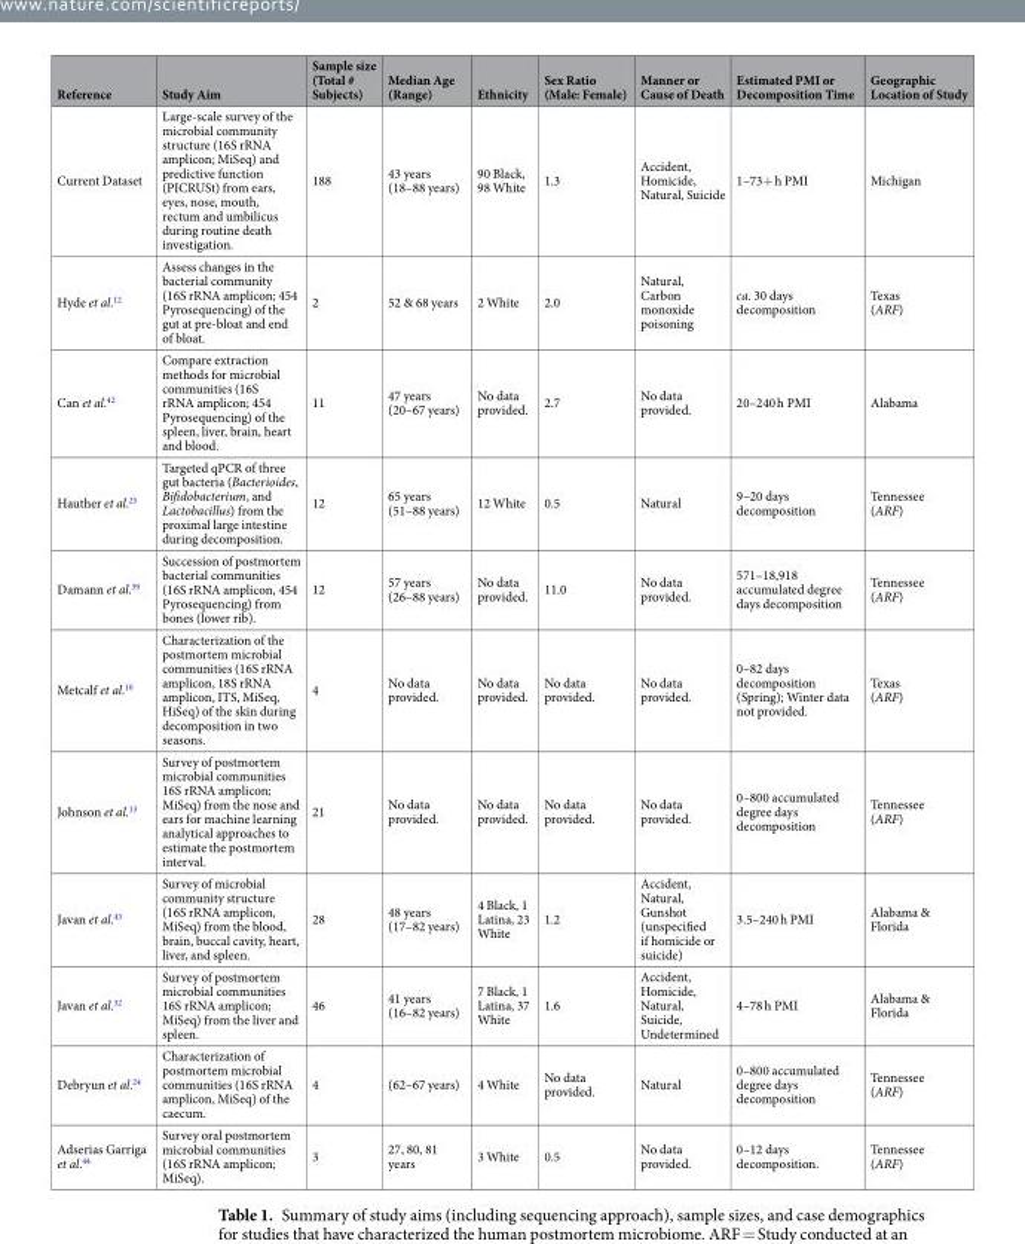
<table><thead><tr><td>Reference</td><td>Study Aim</td><td>Sample size (Total # Subjects)</td><td>Median Age (Range)</td><td>Ethnicity</td><td>Sex Ratio (Male: Female)</td><td>Manner or Cause of Death</td><td>Estimated PMI or Decomposition Time</td><td>Geographic Location of Study</td></tr></thead><tbody><tr><td>Current Dataset</td><td>Large-scale survey of the microbial community structure (16S rRNA amplicon; MiSeq) and predictive function (PICRUSt) from ears, eyes, nose, mouth, rectum and umbilicus during routine death investigation.</td><td>188</td><td>43 years (18–88 years)</td><td>90 Black, 98 White</td><td>1.3</td><td>Accident, Homicide, Natural, Suicide</td><td>1–73+ h PMI</td><td>Michigan</td></tr><tr><td>Hyde et al.<sup>12</sup></td><td>Assess changes in the bacterial community (16S rRNA amplicon; 454 Pyrosequencing) of the gut at pre-bloat and end of bloat.</td><td>2</td><td>52 &amp; 68 years</td><td>2 White</td><td>2.0</td><td>Natural, Carbon monoxide poisoning</td><td>ca. 30 days decomposition</td><td>Texas (ARF)</td></tr><tr><td>Can et al.<sup>42</sup></td><td>Compare extraction methods for microbial communities (16S rRNA amplicon; 454 Pyrosequencing) of the spleen, liver, brain, heart and blood.</td><td>11</td><td>47 years (20–67 years)</td><td>No data provided.</td><td>2.7</td><td>No data provided.</td><td>20–240 h PMI</td><td>Alabama</td></tr><tr><td>Hauther et al.<sup>25</sup></td><td>Targeted qPCR of three gut bacteria (Bacterioides, Bifidobacterium, and Lactobacillus) from the proximal large intestine during decomposition.</td><td>12</td><td>65 years (51–88 years)</td><td>12 White</td><td>0.5</td><td>Natural</td><td>9–20 days decomposition</td><td>Tennessee (ARF)</td></tr><tr><td>Damann et al.<sup>39</sup></td><td>Succession of postmortem bacterial communities (16S rRNA amplicon, 454 Pyrosequencing) from bones (lower rib).</td><td>12</td><td>57 years (26–88 years)</td><td>No data provided.</td><td>11.0</td><td>No data provided.</td><td>571–18,918 accumulated degree days decomposition</td><td>Tennessee (ARF)</td></tr><tr><td>Metcalf et al.<sup>10</sup></td><td>Characterization of the postmortem microbial communities (16S rRNA amplicon, 18S rRNA amplicon, ITS, MiSeq, HiSeq) of the skin during decomposition in two seasons.</td><td>4</td><td>No data provided.</td><td>No data provided.</td><td>No data provided.</td><td>No data provided.</td><td>0–82 days decomposition (Spring); Winter data not provided.</td><td>Texas (ARF)</td></tr><tr><td>Johnson et al.<sup>13</sup></td><td>Survey of postmortem microbial communities 16S rRNA amplicon; MiSeq) from the nose and ears for machine learning analytical approaches to estimate the postmortem interval.</td><td>21</td><td>No data provided.</td><td>No data provided.</td><td>No data provided.</td><td>No data provided.</td><td>0–800 accumulated degree days decomposition</td><td>Tennessee (ARF)</td></tr><tr><td>Javan et al.<sup>43</sup></td><td>Survey of microbial community structure (16S rRNA amplicon, MiSeq) from the blood, brain, buccal cavity, heart, liver, and spleen.</td><td>28</td><td>48 years (17–82 years)</td><td>4 Black, 1 Latina, 23 White</td><td>1.2</td><td>Accident, Natural, Gunshot (unspecified if homicide or suicide)</td><td>3.5–240 h PMI</td><td>Alabama &amp; Florida</td></tr><tr><td>Javan et al.<sup>32</sup></td><td>Survey of postmortem microbial communities 16S rRNA amplicon; MiSeq) from the liver and spleen.</td><td>46</td><td>41 years (16–82 years)</td><td>7 Black, 1 Latina, 37 White</td><td>1.6</td><td>Accident, Homicide, Natural, Suicide, Undetermined</td><td>4–78 h PMI</td><td>Alabama &amp; Florida</td></tr><tr><td>Debryun et al.<sup>24</sup></td><td>Characterization of postmortem microbial communities (16S rRNA amplicon, MiSeq) of the caecum.</td><td>4</td><td>(62–67 years)</td><td>4 White</td><td>No data provided.</td><td>Natural</td><td>0–800 accumulated degree days decomposition</td><td>Tennessee (ARF)</td></tr><tr><td>Adserias Garriga et al.<sup>44</sup></td><td>Survey oral postmortem microbial communities (16S rRNA amplicon; MiSeq).</td><td>3</td><td>27, 80, 81 years</td><td>3 White</td><td>0.5</td><td>No data provided.</td><td>0–12 days decomposition.</td><td>Tennessee (ARF)</td></tr></tbody></table>